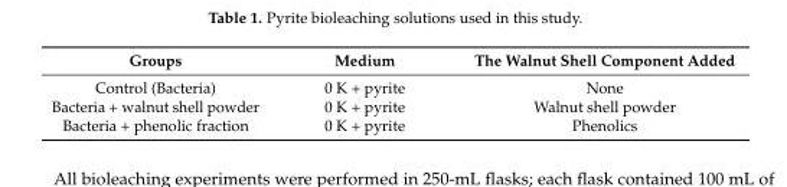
<table><thead><tr><td>Groups</td><td>Medium</td><td>The Walnut Shell Component Added</td></tr></thead><tbody><tr><td>Control (Bacteria)</td><td>0 K + pyrite</td><td>None</td></tr><tr><td>Bacteria + walnut shell powder</td><td>0 K + pyrite</td><td>Walnut shell powder</td></tr><tr><td>Bacteria + phenolic fraction</td><td>0 K + pyrite</td><td>Phenolics</td></tr></tbody></table>